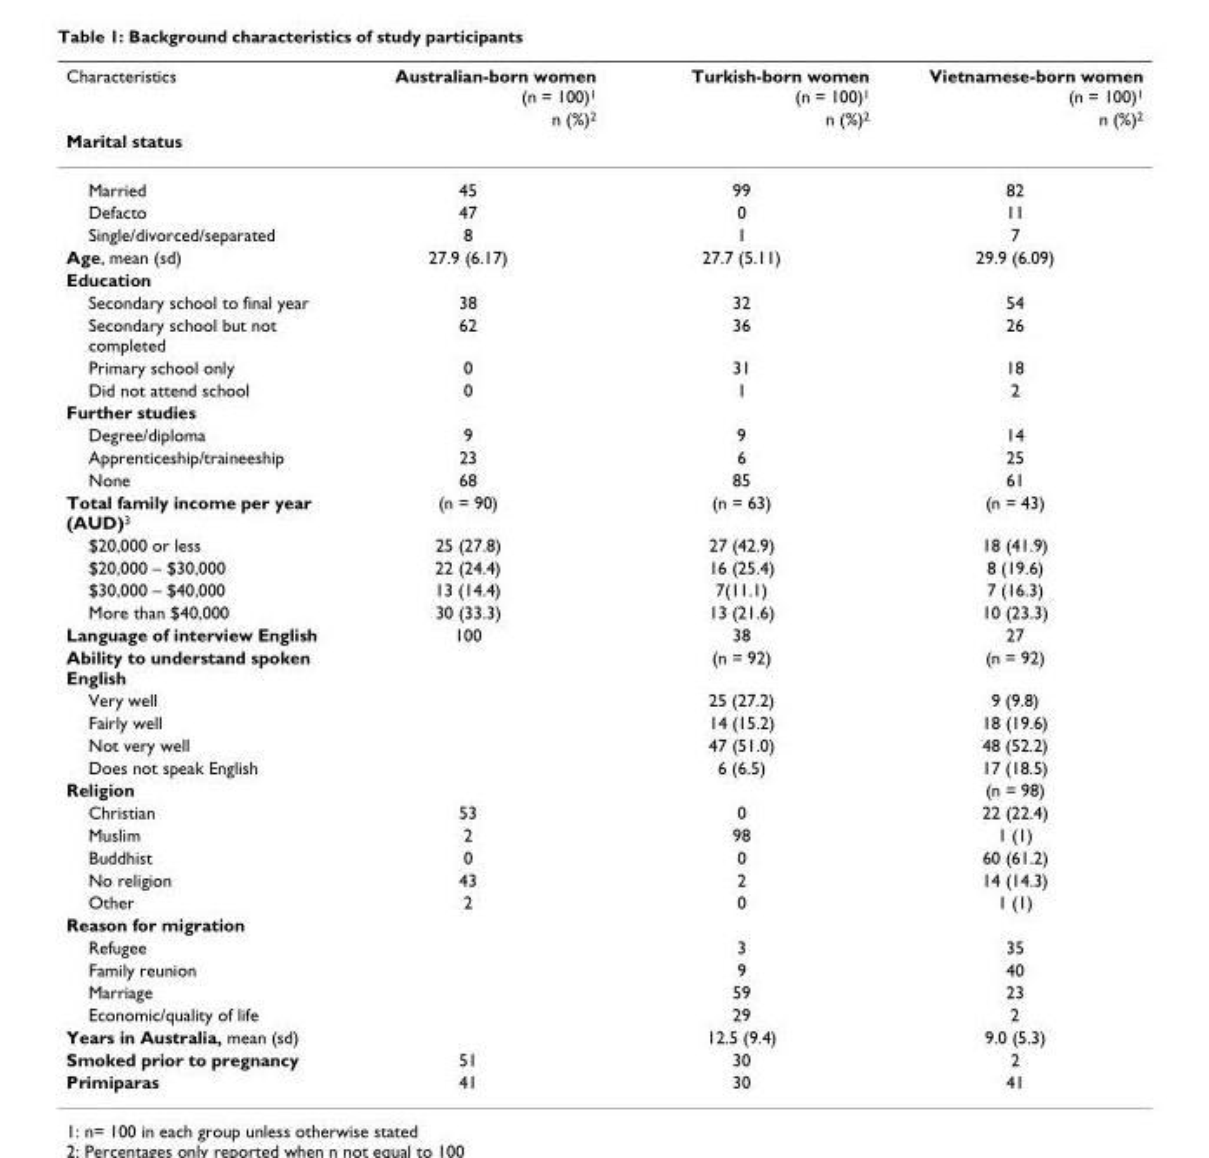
<table><thead><tr><td rowspan="3">Characteristics Marital status</td><td rowspan="3">Australian-born women (n = 100)<sup>1</sup> n (%)<sup>2</sup></td><td rowspan="3">Turkish-born women (n = 100)<sup>1</sup> n (%)<sup>2</sup></td><td rowspan="3">Vietnamese-born women (n = 100)<sup>1</sup> n (%)<sup>2</sup></td></tr><tr></tr><tr></tr></thead><tbody><tr><td>Married</td><td>45</td><td>99</td><td>82</td></tr><tr><td>Defacto</td><td>47</td><td>0</td><td>11</td></tr><tr><td>Single/divorced/separated</td><td>8</td><td>1</td><td>7</td></tr><tr><td>Age, mean (sd)</td><td>27.9 (6.17)</td><td>27.7 (5.11)</td><td>29.9 (6.09)</td></tr><tr><td colspan="4">Education</td></tr><tr><td>Secondary school to final year</td><td>38</td><td>32</td><td>54</td></tr><tr><td>Secondary school but not completed</td><td>62</td><td>36</td><td>26</td></tr><tr><td>Primary school only</td><td>0</td><td>31</td><td>18</td></tr><tr><td>Did not attend school</td><td>0</td><td>1</td><td>2</td></tr><tr><td colspan="4">Further studies</td></tr><tr><td>Degree/diploma</td><td>9</td><td>9</td><td>14</td></tr><tr><td>Apprenticeship/traineeship</td><td>23</td><td>6</td><td>25</td></tr><tr><td>None</td><td>68</td><td>85</td><td>61</td></tr><tr><td>Total family income per year (AUD)<sup>3</sup></td><td>(n = 90)</td><td>(n = 63)</td><td>(n = 43)</td></tr><tr><td>$20,000 or less</td><td>25 (27.8)</td><td>27 (42.9)</td><td>18 (41.9)</td></tr><tr><td>$20,000 – $30,000</td><td>22 (24.4)</td><td>16 (25.4)</td><td>8 (19.6)</td></tr><tr><td>$30,000 – $40,000</td><td>13 (14.4)</td><td>7(11.1)</td><td>7 (16.3)</td></tr><tr><td>More than $40,000</td><td>30 (33.3)</td><td>13 (21.6)</td><td>10 (23.3)</td></tr><tr><td>Language of interview English</td><td>100</td><td>38</td><td>27</td></tr><tr><td>Ability to understand spoken English</td><td></td><td>(n = 92)</td><td>(n = 92)</td></tr><tr><td>Very well</td><td></td><td>25 (27.2)</td><td>9 (9.8)</td></tr><tr><td>Fairly well</td><td></td><td>14 (15.2)</td><td>18 (19.6)</td></tr><tr><td>Not very well</td><td></td><td>47 (51.0)</td><td>48 (52.2)</td></tr><tr><td>Does not speak English</td><td></td><td>6 (6.5)</td><td>17 (18.5)</td></tr><tr><td>Religion</td><td></td><td></td><td>(n = 98)</td></tr><tr><td>Christian</td><td>53</td><td>0</td><td>22 (22.4)</td></tr><tr><td>Muslim</td><td>2</td><td>98</td><td>1 (1)</td></tr><tr><td>Buddhist</td><td>0</td><td>0</td><td>60 (61.2)</td></tr><tr><td>No religion</td><td>43</td><td>2</td><td>14 (14.3)</td></tr><tr><td>Other</td><td>2</td><td>0</td><td>1 (1)</td></tr><tr><td colspan="4">Reason for migration</td></tr><tr><td>Refugee</td><td></td><td>3</td><td>35</td></tr><tr><td>Family reunion</td><td></td><td>9</td><td>40</td></tr><tr><td>Marriage</td><td></td><td>59</td><td>23</td></tr><tr><td>Economic/quality of life</td><td></td><td>29</td><td>2</td></tr><tr><td>Years in Australia, mean (sd)</td><td></td><td>12.5 (9.4)</td><td>9.0 (5.3)</td></tr><tr><td>Smoked prior to pregnancy</td><td>51</td><td>30</td><td>2</td></tr><tr><td>Primiparas</td><td>41</td><td>30</td><td>41</td></tr></tbody></table>